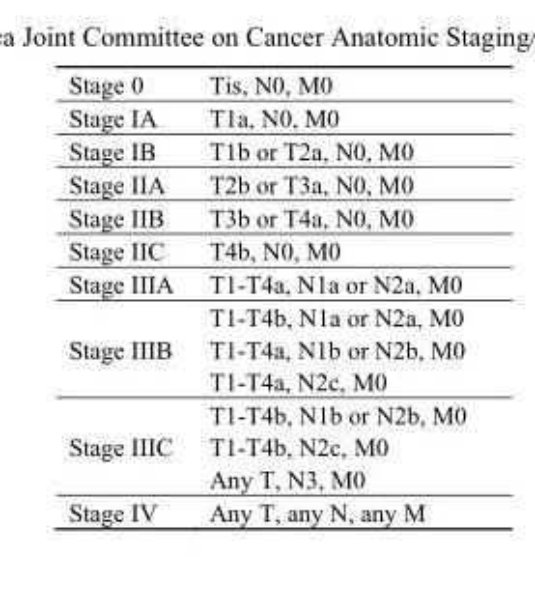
<table><tbody><tr><td>Stage 0</td><td>Tis, N0, M0</td></tr><tr><td>Stage IA</td><td>T1a, N0, M0</td></tr><tr><td>Stage IB</td><td>T1b or T2a, N0, M0</td></tr><tr><td>Stage IIA</td><td>T2b or T3a, N0, M0</td></tr><tr><td>Stage IIB</td><td>T3b or T4a, N0, M0</td></tr><tr><td>Stage IIC</td><td>T4b, N0, M0</td></tr><tr><td>Stage IIIA</td><td>T1-T4a, N1a or N2a, M0</td></tr><tr><td>Stage IIIB</td><td>T1-T4b, N1a or N2a, M0 T1-T4a, N1b or N2b, M0 T1-T4a, N2c, M0</td></tr><tr><td>Stage IIIC</td><td>T1-T4b, N1b or N2b, M0 T1-T4b, N2c, M0 Any T, N3, M0</td></tr><tr><td>Stage IV</td><td>Any T, any N, any M</td></tr></tbody></table>